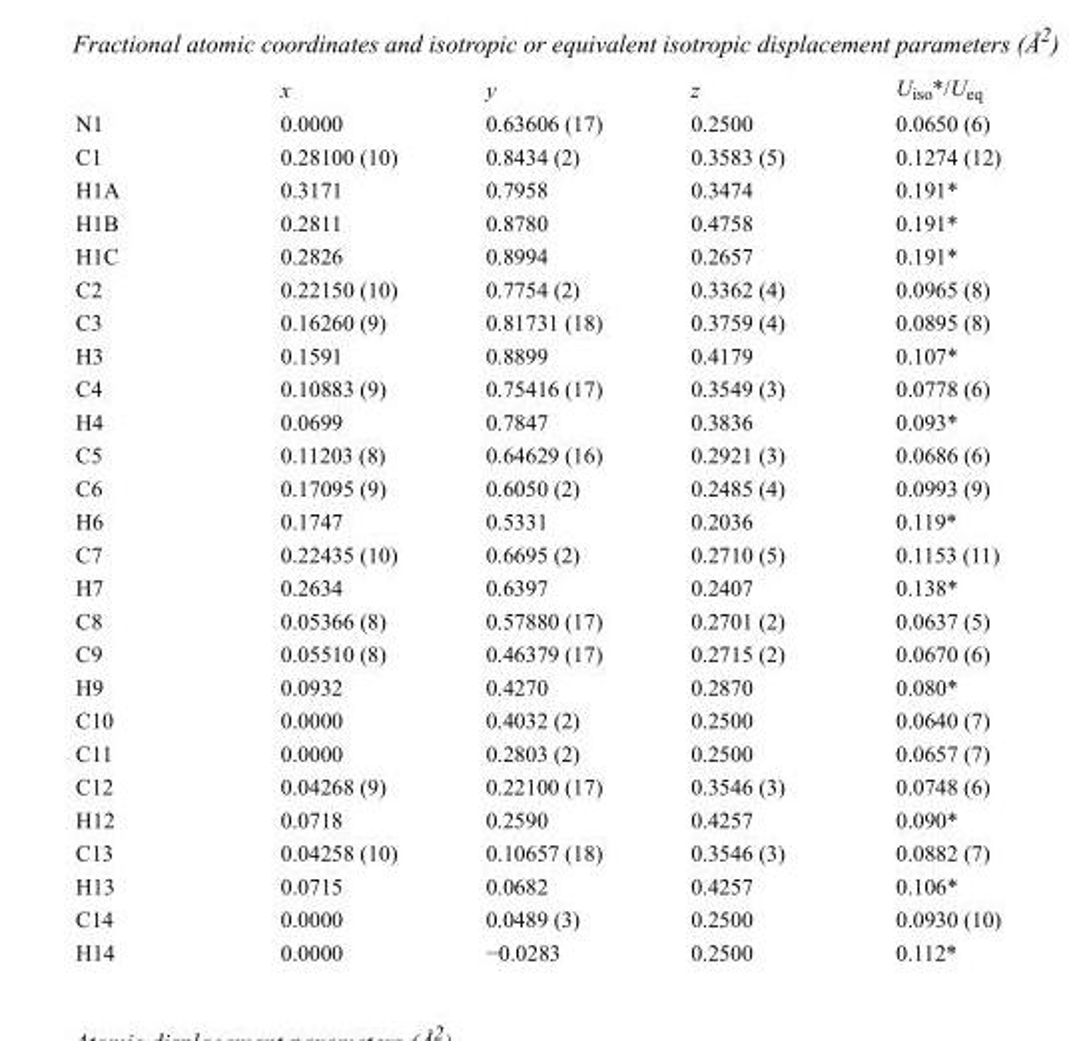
<table><thead><tr><td></td><td>x</td><td>y</td><td>z</td><td>U<sub>iso</sub>*/U<sub>eq</sub></td></tr></thead><tbody><tr><td>N1</td><td>0.0000</td><td>0.63606 (17)</td><td>0.2500</td><td>0.0650 (6)</td></tr><tr><td>C1</td><td>0.28100 (10)</td><td>0.8434 (2)</td><td>0.3583 (5)</td><td>0.1274 (12)</td></tr><tr><td>H1A</td><td>0.3171</td><td>0.7958</td><td>0.3474</td><td>0.191*</td></tr><tr><td>H1B</td><td>0.2811</td><td>0.8780</td><td>0.4758</td><td>0.191*</td></tr><tr><td>H1C</td><td>0.2826</td><td>0.8994</td><td>0.2657</td><td>0.191*</td></tr><tr><td>C2</td><td>0.22150 (10)</td><td>0.7754 (2)</td><td>0.3362 (4)</td><td>0.0965 (8)</td></tr><tr><td>C3</td><td>0.16260 (9)</td><td>0.81731 (18)</td><td>0.3759 (4)</td><td>0.0895 (8)</td></tr><tr><td>H3</td><td>0.1591</td><td>0.8899</td><td>0.4179</td><td>0.107*</td></tr><tr><td>C4</td><td>0.10883 (9)</td><td>0.75416 (17)</td><td>0.3549 (3)</td><td>0.0778 (6)</td></tr><tr><td>H4</td><td>0.0699</td><td>0.7847</td><td>0.3836</td><td>0.093*</td></tr><tr><td>C5</td><td>0.11203 (8)</td><td>0.64629 (16)</td><td>0.2921 (3)</td><td>0.0686 (6)</td></tr><tr><td>C6</td><td>0.17095 (9)</td><td>0.6050 (2)</td><td>0.2485 (4)</td><td>0.0993 (9)</td></tr><tr><td>H6</td><td>0.1747</td><td>0.5331</td><td>0.2036</td><td>0.119*</td></tr><tr><td>C7</td><td>0.22435 (10)</td><td>0.6695 (2)</td><td>0.2710 (5)</td><td>0.1153 (11)</td></tr><tr><td>H7</td><td>0.2634</td><td>0.6397</td><td>0.2407</td><td>0.138*</td></tr><tr><td>C8</td><td>0.05366 (8)</td><td>0.57880 (17)</td><td>0.2701 (2)</td><td>0.0637 (5)</td></tr><tr><td>C9</td><td>0.05510 (8)</td><td>0.46379 (17)</td><td>0.2715 (2)</td><td>0.0670 (6)</td></tr><tr><td>H9</td><td>0.0932</td><td>0.4270</td><td>0.2870</td><td>0.080*</td></tr><tr><td>C10</td><td>0.0000</td><td>0.4032 (2)</td><td>0.2500</td><td>0.0640 (7)</td></tr><tr><td>C11</td><td>0.0000</td><td>0.2803 (2)</td><td>0.2500</td><td>0.0657 (7)</td></tr><tr><td>C12</td><td>0.04268 (9)</td><td>0.22100 (17)</td><td>0.3546 (3)</td><td>0.0748 (6)</td></tr><tr><td>H12</td><td>0.0718</td><td>0.2590</td><td>0.4257</td><td>0.090*</td></tr><tr><td>C13</td><td>0.04258 (10)</td><td>0.10657 (18)</td><td>0.3546 (3)</td><td>0.0882 (7)</td></tr><tr><td>H13</td><td>0.0715</td><td>0.0682</td><td>0.4257</td><td>0.106*</td></tr><tr><td>C14</td><td>0.0000</td><td>0.0489 (3)</td><td>0.2500</td><td>0.0930 (10)</td></tr><tr><td>H14</td><td>0.0000</td><td>−0.0283</td><td>0.2500</td><td>0.112*</td></tr></tbody></table>